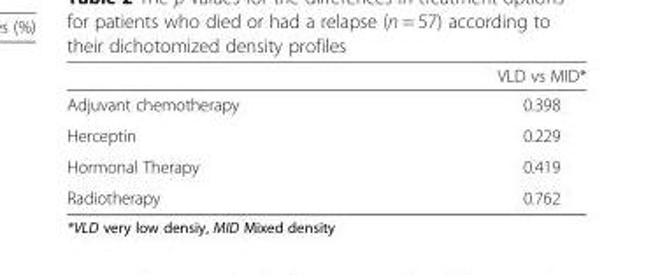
<table><thead><tr><td></td><td>VLD vs MID*</td></tr></thead><tbody><tr><td>Adjuvant chemotherapy</td><td>0.398</td></tr><tr><td>Herceptin</td><td>0.229</td></tr><tr><td>Hormonal Therapy</td><td>0.419</td></tr><tr><td>Radiotherapy</td><td>0.762</td></tr></tbody></table>